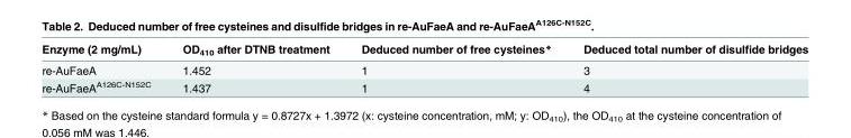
<table><thead><tr><td>Enzyme (2 mg/mL)</td><td>OD<sub>410</sub> after DTNB treatment</td><td>Deduced number of free cysteines*</td><td>Deduced total number of disulfide bridges</td></tr></thead><tbody><tr><td>re-AuFaeA</td><td>1.452</td><td>1</td><td>3</td></tr><tr><td>re-AuFaeA<sup>A126C-N152C</sup></td><td>1.437</td><td>1</td><td>4</td></tr></tbody></table>